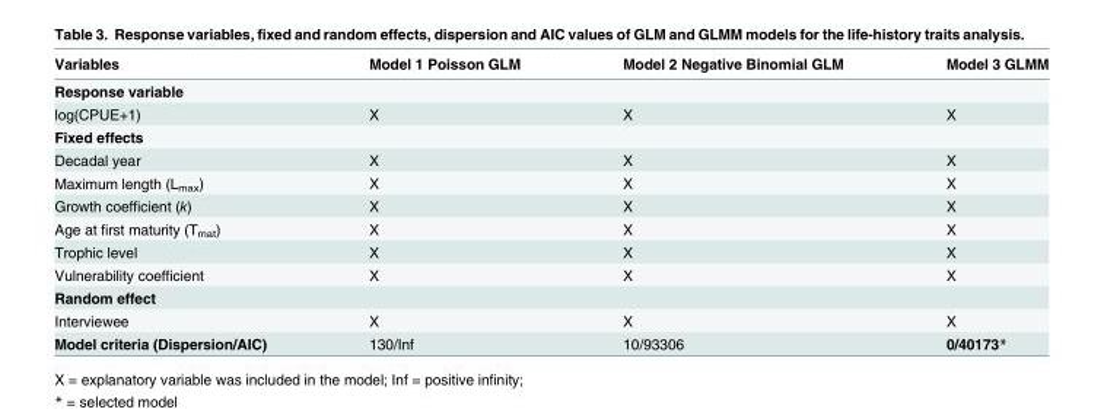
<table><thead><tr><td>Variables</td><td>Model 1 Poisson GLM</td><td>Model 2 Negative Binomial GLM</td><td>Model 3 GLMM</td></tr></thead><tbody><tr><td colspan="4">Response variable</td></tr><tr><td>log(CPUE+1)</td><td>X</td><td>X</td><td>X</td></tr><tr><td colspan="4">Fixed effects</td></tr><tr><td>Decadal year</td><td>X</td><td>X</td><td>X</td></tr><tr><td>Maximum length (L<sub>max</sub>)</td><td>X</td><td>X</td><td>X</td></tr><tr><td>Growth coefficient (k)</td><td>X</td><td>X</td><td>X</td></tr><tr><td>Age at first maturity (T<sub>mat</sub>)</td><td>X</td><td>X</td><td>X</td></tr><tr><td>Trophic level</td><td>X</td><td>X</td><td>X</td></tr><tr><td>Vulnerability coefficient</td><td>X</td><td>X</td><td>X</td></tr><tr><td colspan="4">Random effect</td></tr><tr><td>Interviewee</td><td>X</td><td>X</td><td>X</td></tr><tr><td>Model criteria (Dispersion/AIC)</td><td>130/Inf</td><td>10/93306</td><td>0/40173*</td></tr></tbody></table>